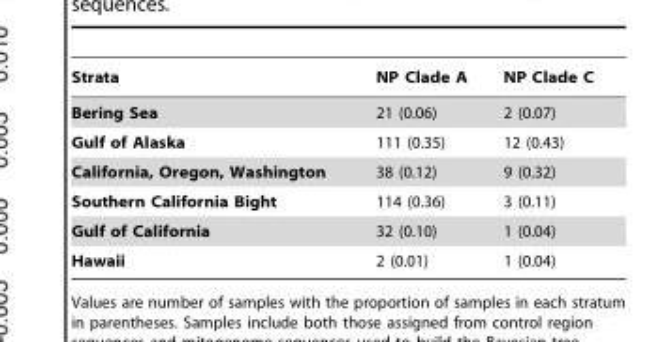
<table><thead><tr><td>Strata</td><td>NP Clade A</td><td>NP Clade C</td></tr></thead><tbody><tr><td>Bering Sea</td><td>21 (0.06)</td><td>2 (0.07)</td></tr><tr><td>Gulf of Alaska</td><td>111 (0.35)</td><td>12 (0.43)</td></tr><tr><td>California, Oregon, Washington</td><td>38 (0.12)</td><td>9 (0.32)</td></tr><tr><td>Southern California Bight</td><td>114 (0.36)</td><td>3 (0.11)</td></tr><tr><td>Gulf of California</td><td>32 (0.10)</td><td>1 (0.04)</td></tr><tr><td>Hawaii</td><td>2 (0.01)</td><td>1 (0.04)</td></tr></tbody></table>